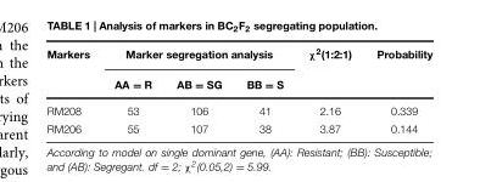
<table><thead><tr><td rowspan="2">Markers</td><td colspan="3">Marker segregation analysis</td><td rowspan="2">χ<sup>2</sup>(1:2:1)</td><td rowspan="2">Probability</td></tr><tr><td>AA = R</td><td>AB = SG</td><td>BB = S</td></tr></thead><tbody><tr><td>RM208</td><td>53</td><td>106</td><td>41</td><td>2.16</td><td>0.339</td></tr><tr><td>RM206</td><td>55</td><td>107</td><td>38</td><td>3.87</td><td>0.144</td></tr></tbody></table>